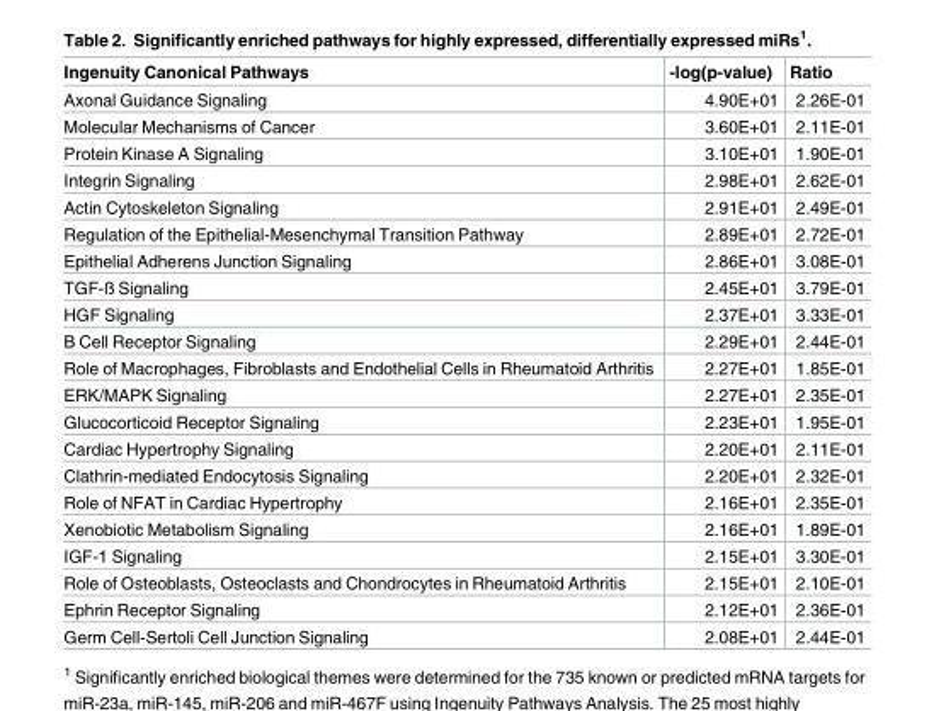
<table><thead><tr><td>Ingenuity Canonical Pathways</td><td>-log(p-value)</td><td>Ratio</td></tr></thead><tbody><tr><td>Axonal Guidance Signaling</td><td>4.90E+01</td><td>2.26E-01</td></tr><tr><td>Molecular Mechanisms of Cancer</td><td>3.60E+01</td><td>2.11E-01</td></tr><tr><td>Protein Kinase A Signaling</td><td>3.10E+01</td><td>1.90E-01</td></tr><tr><td>Integrin Signaling</td><td>2.98E+01</td><td>2.62E-01</td></tr><tr><td>Actin Cytoskeleton Signaling</td><td>2.91E+01</td><td>2.49E-01</td></tr><tr><td>Regulation of the Epithelial-Mesenchymal Transition Pathway</td><td>2.89E+01</td><td>2.72E-01</td></tr><tr><td>Epithelial Adherens Junction Signaling</td><td>2.86E+01</td><td>3.08E-01</td></tr><tr><td>TGF-ß Signaling</td><td>2.45E+01</td><td>3.79E-01</td></tr><tr><td>HGF Signaling</td><td>2.37E+01</td><td>3.33E-01</td></tr><tr><td>B Cell Receptor Signaling</td><td>2.29E+01</td><td>2.44E-01</td></tr><tr><td>Role of Macrophages, Fibroblasts and Endothelial Cells in Rheumatoid Arthritis</td><td>2.27E+01</td><td>1.85E-01</td></tr><tr><td>ERK/MAPK Signaling</td><td>2.27E+01</td><td>2.35E-01</td></tr><tr><td>Glucocorticoid Receptor Signaling</td><td>2.23E+01</td><td>1.95E-01</td></tr><tr><td>Cardiac Hypertrophy Signaling</td><td>2.20E+01</td><td>2.11E-01</td></tr><tr><td>Clathrin-mediated Endocytosis Signaling</td><td>2.20E+01</td><td>2.32E-01</td></tr><tr><td>Role of NFAT in Cardiac Hypertrophy</td><td>2.16E+01</td><td>2.35E-01</td></tr><tr><td>Xenobiotic Metabolism Signaling</td><td>2.16E+01</td><td>1.89E-01</td></tr><tr><td>IGF-1 Signaling</td><td>2.15E+01</td><td>3.30E-01</td></tr><tr><td>Role of Osteoblasts, Osteoclasts and Chondrocytes in Rheumatoid Arthritis</td><td>2.15E+01</td><td>2.10E-01</td></tr><tr><td>Ephrin Receptor Signaling</td><td>2.12E+01</td><td>2.36E-01</td></tr><tr><td>Germ Cell-Sertoli Cell Junction Signaling</td><td>2.08E+01</td><td>2.44E-01</td></tr></tbody></table>